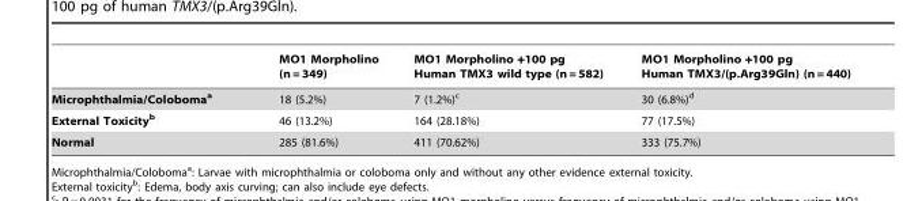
<table><thead><tr><td></td><td>MO1 Morpholino (n = 349)</td><td>MO1 Morpholino +100 pg Human TMX3 wild type (n = 582)</td><td>MO1 Morpholino +100 pg Human TMX3/(p.Arg39Gln) (n = 440)</td></tr></thead><tbody><tr><td>Microphthalmia/Coloboma<sup>a</sup></td><td>18 (5.2%)</td><td>7 (1.2%)<sup>c</sup></td><td>30 (6.8%)<sup>d</sup></td></tr><tr><td>External Toxicity<sup>b</sup></td><td>46 (13.2%)</td><td>164 (28.18%)</td><td>77 (17.5%)</td></tr><tr><td>Normal</td><td>285 (81.6%)</td><td>411 (70.62%)</td><td>333 (75.7%)</td></tr></tbody></table>